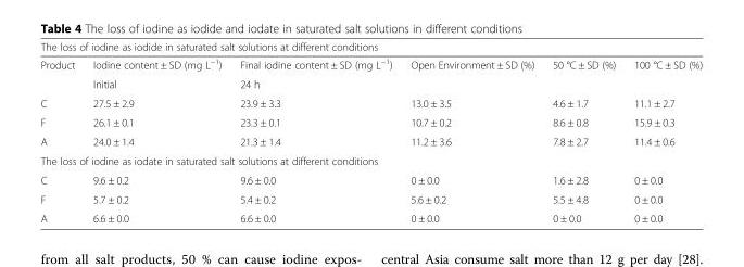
<table><thead><tr><td colspan="6">The loss of iodine as iodide in saturated salt solutions at different conditions</td></tr><tr><td>Product</td><td>Iodine content ± SD (mg L<sup>−1</sup>)</td><td>Final iodine content ± SD (mg L<sup>−1</sup>)</td><td>Open Environment ± SD (%)</td><td>50 °C ± SD (%)</td><td>100 °C ± SD (%)</td></tr></thead><tbody><tr><td></td><td>Initial</td><td>24 h</td><td></td><td></td><td></td></tr><tr><td>C</td><td>27.5 ± 2.9</td><td>23.9 ± 3.3</td><td>13.0 ± 3.5</td><td>4.6 ± 1.7</td><td>11.1 ± 2.7</td></tr><tr><td>F</td><td>26.1 ± 0.1</td><td>23.3 ± 0.1</td><td>10.7 ± 0.2</td><td>8.6 ± 0.8</td><td>15.9 ± 0.3</td></tr><tr><td>A</td><td>24.0 ± 1.4</td><td>21.3 ± 1.4</td><td>11.2 ± 3.6</td><td>7.8 ± 2.7</td><td>11.4 ± 0.6</td></tr><tr><td colspan="6">The loss of iodine as iodate in saturated salt solutions at different conditions</td></tr><tr><td>C</td><td>9.6 ± 0.2</td><td>9.6 ± 0.0</td><td>0 ± 0.0</td><td>1.6 ± 2.8</td><td>0 ± 0.0</td></tr><tr><td>F</td><td>5.7 ± 0.2</td><td>5.4 ± 0.2</td><td>5.6 ± 0.2</td><td>5.5 ± 4.8</td><td>0 ± 0.0</td></tr><tr><td>A</td><td>6.6 ± 0.0</td><td>6.6 ± 0.0</td><td>0 ± 0.0</td><td>0 ± 0.0</td><td>0 ± 0.0</td></tr></tbody></table>